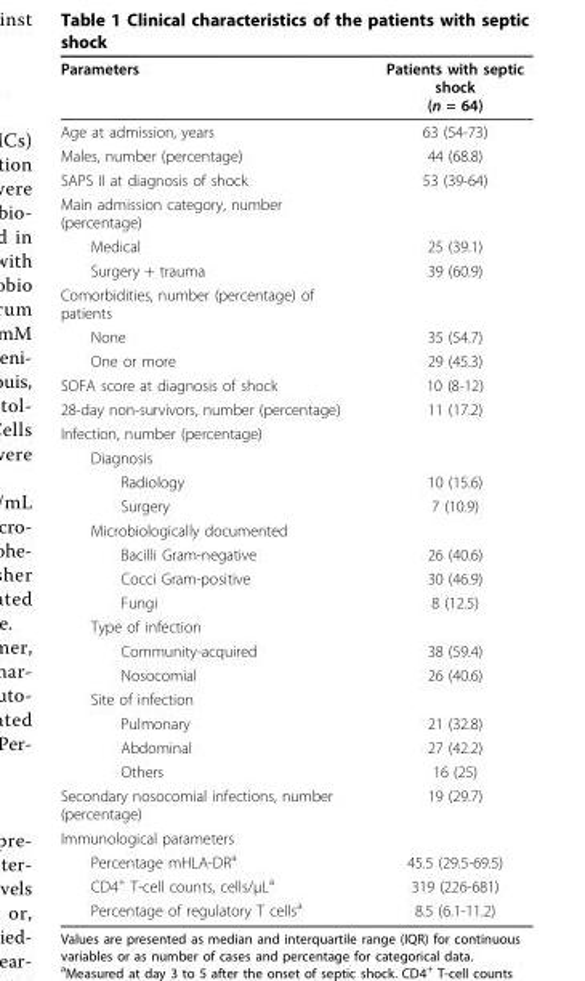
<table><thead><tr><td>Parameters</td><td>Patients with septic shock (n = 64)</td></tr></thead><tbody><tr><td>Age at admission, years</td><td>63 (54-73)</td></tr><tr><td>Males, number (percentage)</td><td>44 (68.8)</td></tr><tr><td>SAPS II at diagnosis of shock</td><td>53 (39-64)</td></tr><tr><td colspan="2">Main admission category, number (percentage)</td></tr><tr><td>Medical</td><td>25 (39.1)</td></tr><tr><td>Surgery + trauma</td><td>39 (60.9)</td></tr><tr><td colspan="2">Comorbidities, number (percentage) of patients</td></tr><tr><td>None</td><td>35 (54.7)</td></tr><tr><td>One or more</td><td>29 (45.3)</td></tr><tr><td>SOFA score at diagnosis of shock</td><td>10 (8-12)</td></tr><tr><td>28-day non-survivors, number (percentage)</td><td>11 (17.2)</td></tr><tr><td colspan="2">Infection, number (percentage)</td></tr><tr><td colspan="2">Diagnosis</td></tr><tr><td>Radiology</td><td>10 (15.6)</td></tr><tr><td>Surgery</td><td>7 (10.9)</td></tr><tr><td colspan="2">Microbiologically documented</td></tr><tr><td>Bacilli Gram-negative</td><td>26 (40.6)</td></tr><tr><td>Cocci Gram-positive</td><td>30 (46.9)</td></tr><tr><td>Fungi</td><td>8 (12.5)</td></tr><tr><td colspan="2">Type of infection</td></tr><tr><td>Community-acquired</td><td>38 (59.4)</td></tr><tr><td>Nosocomial</td><td>26 (40.6)</td></tr><tr><td colspan="2">Site of infection</td></tr><tr><td>Pulmonary</td><td>21 (32.8)</td></tr><tr><td>Abdominal</td><td>27 (42.2)</td></tr><tr><td>Others</td><td>16 (25)</td></tr><tr><td>Secondary nosocomial infections, number (percentage)</td><td>19 (29.7)</td></tr><tr><td colspan="2">Immunological parameters</td></tr><tr><td>Percentage mHLA-DR<sup>a</sup></td><td>45.5 (29.5-69.5)</td></tr><tr><td>CD4<sup>+</sup> T-cell counts, cells/μL<sup>a</sup></td><td>319 (226-681)</td></tr><tr><td>Percentage of regulatory T cells<sup>a</sup></td><td>8.5 (6.1-11.2)</td></tr></tbody></table>